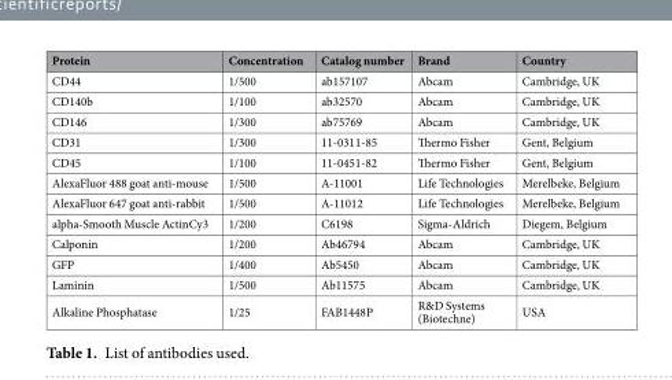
<table><thead><tr><td>Protein</td><td>Concentration</td><td>Catalog number</td><td>Brand</td><td>Country</td></tr></thead><tbody><tr><td>CD44</td><td>1/500</td><td>ab157107</td><td>Abcam</td><td>Cambridge, UK</td></tr><tr><td>CD140b</td><td>1/100</td><td>ab32570</td><td>Abcam</td><td>Cambridge, UK</td></tr><tr><td>CD146</td><td>1/300</td><td>ab75769</td><td>Abcam</td><td>Cambridge, UK</td></tr><tr><td>CD31</td><td>1/300</td><td>11-0311-85</td><td>Thermo Fisher</td><td>Gent, Belgium</td></tr><tr><td>CD45</td><td>1/100</td><td>11-0451-82</td><td>Thermo Fisher</td><td>Gent, Belgium</td></tr><tr><td>AlexaFluor 488 goat anti-mouse</td><td>1/500</td><td>A-11001</td><td>Life Technologies</td><td>Merelbeke, Belgium</td></tr><tr><td>AlexaFluor 647 goat anti-rabbit</td><td>1/500</td><td>A-11012</td><td>Life Technologies</td><td>Merelbeke, Belgium</td></tr><tr><td>alpha-Smooth Muscle ActinCy3</td><td>1/200</td><td>C6198</td><td>Sigma-Aldrich</td><td>Diegem, Belgium</td></tr><tr><td>Calponin</td><td>1/200</td><td>Ab46794</td><td>Abcam</td><td>Cambridge, UK</td></tr><tr><td>GFP</td><td>1/400</td><td>Ab5450</td><td>Abcam</td><td>Cambridge, UK</td></tr><tr><td>Laminin</td><td>1/500</td><td>Ab11575</td><td>Abcam</td><td>Cambridge, UK</td></tr><tr><td>Alkaline Phosphatase</td><td>1/25</td><td>FAB1448P</td><td>R&amp;D Systems (Biotechne)</td><td>USA</td></tr></tbody></table>